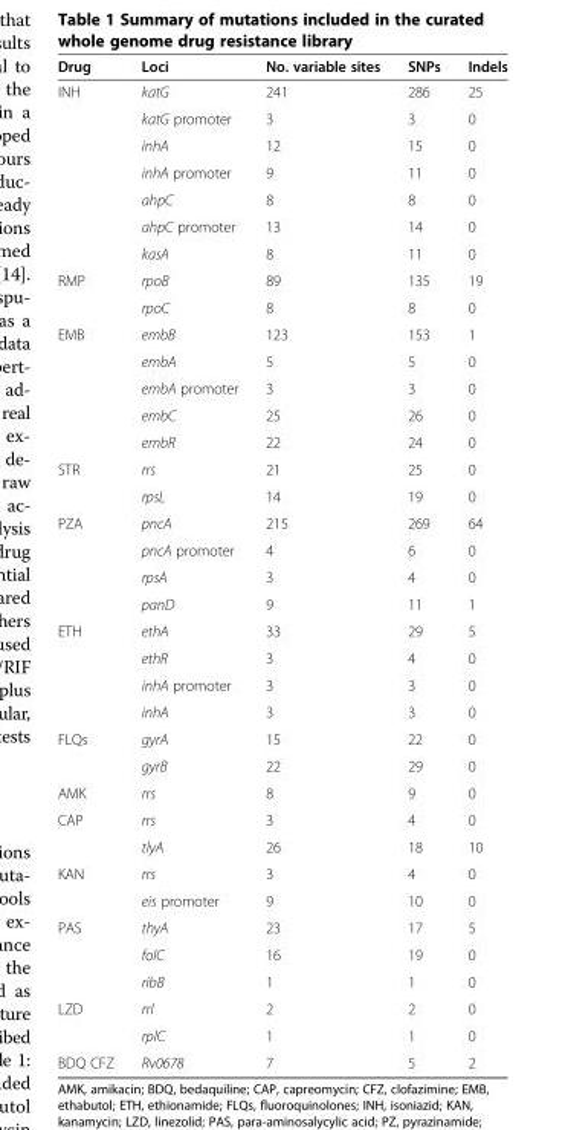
<table><thead><tr><td>Drug</td><td>Loci</td><td>No. variable sites</td><td>SNPs</td><td>Indels</td></tr></thead><tbody><tr><td rowspan="7">INH</td><td>katG</td><td>241</td><td>286</td><td>25</td></tr><tr><td>katG promoter</td><td>3</td><td>3</td><td>0</td></tr><tr><td>inhA</td><td>12</td><td>15</td><td>0</td></tr><tr><td>inhA promoter</td><td>9</td><td>11</td><td>0</td></tr><tr><td>ahpC</td><td>8</td><td>8</td><td>0</td></tr><tr><td>ahpC promoter</td><td>13</td><td>14</td><td>0</td></tr><tr><td>kasA</td><td>8</td><td>11</td><td>0</td></tr><tr><td rowspan="2">RMP</td><td>rpoB</td><td>89</td><td>135</td><td>19</td></tr><tr><td>rpoC</td><td>8</td><td>8</td><td>0</td></tr><tr><td rowspan="5">EMB</td><td>embB</td><td>123</td><td>153</td><td>1</td></tr><tr><td>embA</td><td>5</td><td>5</td><td>0</td></tr><tr><td>embA promoter</td><td>3</td><td>3</td><td>0</td></tr><tr><td>embC</td><td>25</td><td>26</td><td>0</td></tr><tr><td>embR</td><td>22</td><td>24</td><td>0</td></tr><tr><td rowspan="2">STR</td><td>rrs</td><td>21</td><td>25</td><td>0</td></tr><tr><td>rpsL</td><td>14</td><td>19</td><td>0</td></tr><tr><td rowspan="4">PZA</td><td>pncA</td><td>215</td><td>269</td><td>64</td></tr><tr><td>pncA promoter</td><td>4</td><td>6</td><td>0</td></tr><tr><td>rpsA</td><td>3</td><td>4</td><td>0</td></tr><tr><td>panD</td><td>9</td><td>11</td><td>1</td></tr><tr><td rowspan="4">ETH</td><td>ethA</td><td>33</td><td>29</td><td>5</td></tr><tr><td>ethR</td><td>3</td><td>4</td><td>0</td></tr><tr><td>inhA promoter</td><td>3</td><td>3</td><td>0</td></tr><tr><td>inhA</td><td>3</td><td>3</td><td>0</td></tr><tr><td rowspan="2">FLQs</td><td>gyrA</td><td>15</td><td>22</td><td>0</td></tr><tr><td>gyrB</td><td>22</td><td>29</td><td>0</td></tr><tr><td>AMK</td><td>rrs</td><td>8</td><td>9</td><td>0</td></tr><tr><td rowspan="2">CAP</td><td>rrs</td><td>3</td><td>4</td><td>0</td></tr><tr><td>tlyA</td><td>26</td><td>18</td><td>10</td></tr><tr><td rowspan="2">KAN</td><td>rrs</td><td>3</td><td>4</td><td>0</td></tr><tr><td>eis promoter</td><td>9</td><td>10</td><td>0</td></tr><tr><td rowspan="3">PAS</td><td>thyA</td><td>23</td><td>17</td><td>5</td></tr><tr><td>folC</td><td>16</td><td>19</td><td>0</td></tr><tr><td>ribB</td><td>1</td><td>1</td><td>0</td></tr><tr><td rowspan="2">LZD</td><td>rrl</td><td>2</td><td>2</td><td>0</td></tr><tr><td>rplC</td><td>1</td><td>1</td><td>0</td></tr><tr><td>BDQ CFZ</td><td>Rv0678</td><td>7</td><td>5</td><td>2</td></tr></tbody></table>